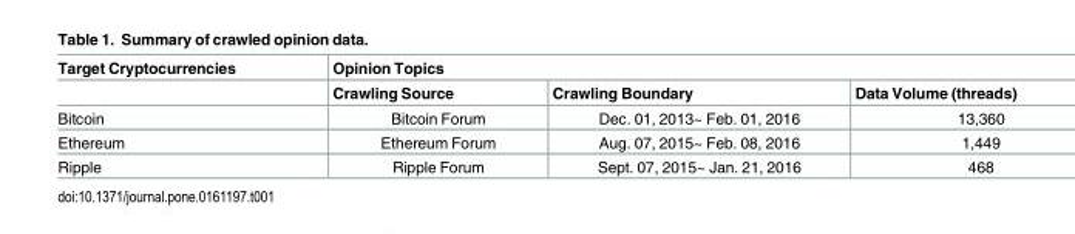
<table><thead><tr><td rowspan="2">Target Cryptocurrencies</td><td colspan="3">Opinion Topics</td></tr><tr><td>Crawling Source</td><td>Crawling Boundary</td><td>Data Volume (threads)</td></tr></thead><tbody><tr><td>Bitcoin</td><td>Bitcoin Forum</td><td>Dec. 01, 2013~ Feb. 01, 2016</td><td>13,360</td></tr><tr><td>Ethereum</td><td>Ethereum Forum</td><td>Aug. 07, 2015~ Feb. 08, 2016</td><td>1,449</td></tr><tr><td>Ripple</td><td>Ripple Forum</td><td>Sept. 07, 2015~ Jan. 21, 2016</td><td>468</td></tr></tbody></table>